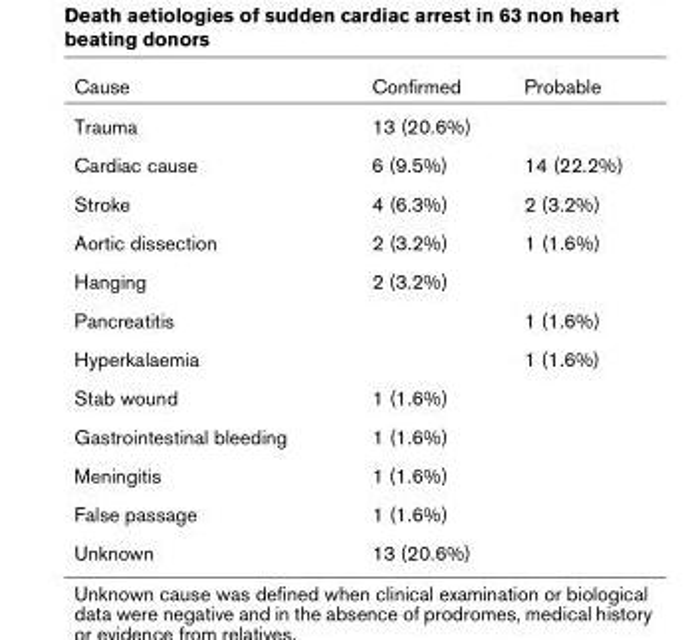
<table><thead><tr><td>Cause</td><td>Confirmed</td><td>Probable</td></tr></thead><tbody><tr><td>Trauma</td><td>13 (20.6%)</td><td></td></tr><tr><td>Cardiac cause</td><td>6 (9.5%)</td><td>14 (22.2%)</td></tr><tr><td>Stroke</td><td>4 (6.3%)</td><td>2 (3.2%)</td></tr><tr><td>Aortic dissection</td><td>2 (3.2%)</td><td>1 (1.6%)</td></tr><tr><td>Hanging</td><td>2 (3.2%)</td><td></td></tr><tr><td>Pancreatitis</td><td></td><td>1 (1.6%)</td></tr><tr><td>Hyperkalaemia</td><td></td><td>1 (1.6%)</td></tr><tr><td>Stab wound</td><td>1 (1.6%)</td><td></td></tr><tr><td>Gastrointestinal bleeding</td><td>1 (1.6%)</td><td></td></tr><tr><td>Meningitis</td><td>1 (1.6%)</td><td></td></tr><tr><td>False passage</td><td>1 (1.6%)</td><td></td></tr><tr><td>Unknown</td><td>13 (20.6%)</td><td></td></tr></tbody></table>